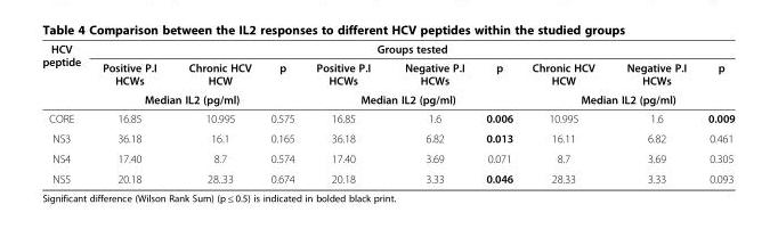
<table><thead><tr><td rowspan="3">HCV peptide</td><td colspan="9">Groups tested</td></tr><tr><td>Positive P.I HCWs</td><td>Chronic HCV HCW</td><td>p</td><td>Positive P.I HCWs</td><td>Negative P.I HCWs</td><td>p</td><td>Chronic HCV HCW</td><td>Negative P.I HCWs</td><td>p</td></tr><tr><td colspan="3">Median IL2 (pg/ml)</td><td colspan="3">Median IL2 (pg/ml)</td><td colspan="3">Median IL2 (pg/ml)</td></tr></thead><tbody><tr><td>CORE</td><td>16.85</td><td>10.995</td><td>0.575</td><td>16.85</td><td>1.6</td><td>0.006</td><td>10.995</td><td>1.6</td><td>0.009</td></tr><tr><td>NS3</td><td>36.18</td><td>16.1</td><td>0.165</td><td>36.18</td><td>6.82</td><td>0.013</td><td>16.11</td><td>6.82</td><td>0.461</td></tr><tr><td>NS4</td><td>17.40</td><td>8.7</td><td>0.574</td><td>17.40</td><td>3.69</td><td>0.071</td><td>8.7</td><td>3.69</td><td>0.305</td></tr><tr><td>NS5</td><td>20.18</td><td>28..33</td><td>0.674</td><td>20.18</td><td>3.33</td><td>0.046</td><td>28.33</td><td>3.33</td><td>0.093</td></tr></tbody></table>